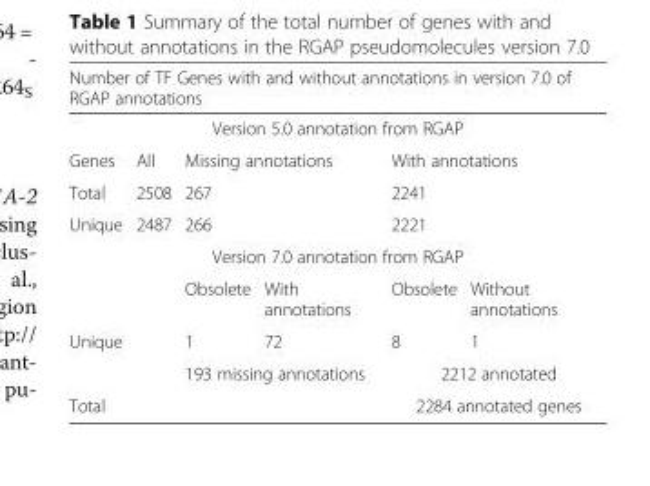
<table><thead><tr><td colspan="6">Number of TF Genes with and without annotations in version 7.0 of RGAP annotations</td></tr></thead><tbody><tr><td colspan="6">Version 5.0 annotation from RGAP</td></tr><tr><td>Genes</td><td>All</td><td colspan="2">Missing annotations</td><td colspan="2">With annotations</td></tr><tr><td>Total</td><td>2508</td><td colspan="2">267</td><td colspan="2">2241</td></tr><tr><td>Unique</td><td>2487</td><td colspan="2">266</td><td colspan="2">2221</td></tr><tr><td colspan="6">Version 7.0 annotation from RGAP</td></tr><tr><td></td><td></td><td>Obsolete</td><td>With annotations</td><td>Obsolete</td><td>Without annotations</td></tr><tr><td rowspan="2">Unique</td><td></td><td>1</td><td>72</td><td>8</td><td>1</td></tr><tr><td></td><td colspan="2">193 missing annotations</td><td colspan="2">2212 annotated</td></tr><tr><td>Total</td><td></td><td colspan="2"></td><td colspan="2">2284 annotated genes</td></tr></tbody></table>